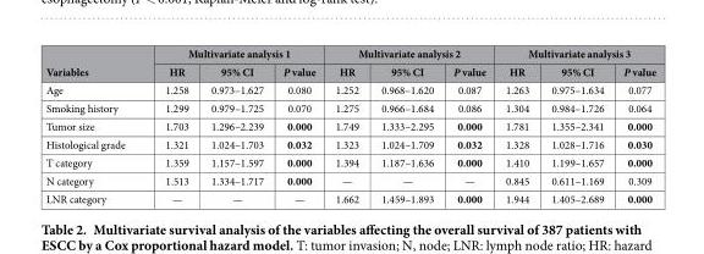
<table><thead><tr><td rowspan="2">Variables</td><td colspan="3">Multivariate analysis 1</td><td colspan="3">Multivariate analysis 2</td><td colspan="3">Multivariate analysis 3</td></tr><tr><td>HR</td><td>95% CI</td><td>P value</td><td>HR</td><td>95% CI</td><td>P value</td><td>HR</td><td>95% CI</td><td>P value</td></tr></thead><tbody><tr><td>Age</td><td>1.258</td><td>0.973–1.627</td><td>0.080</td><td>1.252</td><td>0.968–1.620</td><td>0.087</td><td>1.263</td><td>0.975–1.634</td><td>0.077</td></tr><tr><td>Smoking history</td><td>1.299</td><td>0.979–1.725</td><td>0.070</td><td>1.275</td><td>0.966–1.684</td><td>0.086</td><td>1.304</td><td>0.984–1.726</td><td>0.064</td></tr><tr><td>Tumor size</td><td>1.703</td><td>1.296–2.239</td><td>0.000</td><td>1.749</td><td>1.333–2.295</td><td>0.000</td><td>1.781</td><td>1.355–2.341</td><td>0.000</td></tr><tr><td>Histological grade</td><td>1.321</td><td>1.024–1.703</td><td>0.032</td><td>1.323</td><td>1.024–1.709</td><td>0.032</td><td>1.328</td><td>1.028–1.716</td><td>0.030</td></tr><tr><td>T category</td><td>1.359</td><td>1.157–1.597</td><td>0.000</td><td>1.394</td><td>1.187–1.636</td><td>0.000</td><td>1.410</td><td>1.199–1.657</td><td>0.000</td></tr><tr><td>N category</td><td>1.513</td><td>1.334–1.717</td><td>0.000</td><td>—</td><td>—</td><td>—</td><td>0.845</td><td>0.611–1.169</td><td>0.309</td></tr><tr><td>LNR category</td><td>—</td><td>—</td><td>—</td><td>1.662</td><td>1.459–1.893</td><td>0.000</td><td>1.944</td><td>1.405–2.689</td><td>0.000</td></tr></tbody></table>